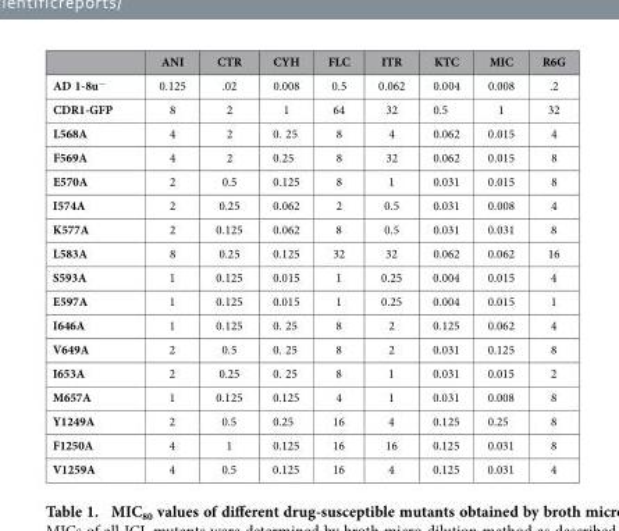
<table><thead><tr><td></td><td>ANI</td><td>CTR</td><td>CYH</td><td>FLC</td><td>ITR</td><td>KTC</td><td>MIC</td><td>R6G</td></tr></thead><tbody><tr><td>AD 1-8u<sup>−</sup></td><td>0.125</td><td>.02</td><td>0.008</td><td>0.5</td><td>0.062</td><td>0.004</td><td>0.008</td><td>.2</td></tr><tr><td>CDR1-GFP</td><td>8</td><td>2</td><td>1</td><td>64</td><td>32</td><td>0.5</td><td>1</td><td>32</td></tr><tr><td>L568A</td><td>4</td><td>2</td><td>0. 25</td><td>8</td><td>4</td><td>0.062</td><td>0.015</td><td>4</td></tr><tr><td>F569A</td><td>4</td><td>2</td><td>0.25</td><td>8</td><td>32</td><td>0.062</td><td>0.015</td><td>8</td></tr><tr><td>E570A</td><td>2</td><td>0.5</td><td>0.125</td><td>8</td><td>1</td><td>0.031</td><td>0.015</td><td>8</td></tr><tr><td>I574A</td><td>2</td><td>0.25</td><td>0.062</td><td>2</td><td>0.5</td><td>0.031</td><td>0.008</td><td>4</td></tr><tr><td>K577A</td><td>2</td><td>0.125</td><td>0.062</td><td>8</td><td>0.5</td><td>0.031</td><td>0.031</td><td>8</td></tr><tr><td>L583A</td><td>8</td><td>0.25</td><td>0.125</td><td>32</td><td>32</td><td>0.062</td><td>0.062</td><td>16</td></tr><tr><td>S593A</td><td>1</td><td>0.125</td><td>0.015</td><td>1</td><td>0.25</td><td>0.004</td><td>0.015</td><td>4</td></tr><tr><td>E597A</td><td>1</td><td>0.125</td><td>0.015</td><td>1</td><td>0.25</td><td>0.004</td><td>0.015</td><td>1</td></tr><tr><td>I646A</td><td>1</td><td>0.125</td><td>0. 25</td><td>8</td><td>2</td><td>0.125</td><td>0.062</td><td>4</td></tr><tr><td>V649A</td><td>2</td><td>0.5</td><td>0. 25</td><td>8</td><td>2</td><td>0.031</td><td>0.125</td><td>8</td></tr><tr><td>I653A</td><td>2</td><td>0.25</td><td>0. 25</td><td>8</td><td>1</td><td>0.031</td><td>0.015</td><td>2</td></tr><tr><td>M657A</td><td>1</td><td>0.125</td><td>0.125</td><td>4</td><td>1</td><td>0.031</td><td>0.008</td><td>8</td></tr><tr><td>Y1249A</td><td>2</td><td>0.5</td><td>0.25</td><td>16</td><td>4</td><td>0.125</td><td>0.25</td><td>8</td></tr><tr><td>F1250A</td><td>4</td><td>1</td><td>0.125</td><td>16</td><td>16</td><td>0.125</td><td>0.031</td><td>8</td></tr><tr><td>V1259A</td><td>4</td><td>0.5</td><td>0.125</td><td>16</td><td>4</td><td>0.125</td><td>0.031</td><td>4</td></tr></tbody></table>